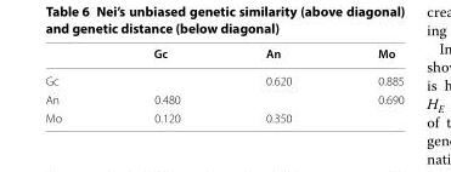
<table><thead><tr><td></td><td>Gc</td><td>An</td><td>Mo</td></tr></thead><tbody><tr><td>Gc</td><td></td><td>0.620</td><td>0.885</td></tr><tr><td>An</td><td>0.480</td><td></td><td>0.690</td></tr><tr><td>Mo</td><td>0.120</td><td>0.350</td><td></td></tr></tbody></table>